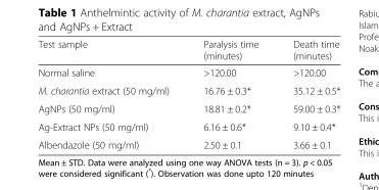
<table><thead><tr><td>Test sample</td><td>Paralysis time (minutes)</td><td>Death time (minutes)</td></tr></thead><tbody><tr><td>Normal saline</td><td>&gt;120.00</td><td>&gt;120.00</td></tr><tr><td>M. charantia extract (50 mg/ml)</td><td>16.76 ± 0.3*</td><td>35.12 ± 0.5*</td></tr><tr><td>AgNPs (50 mg/ml)</td><td>18.81 ± 0.2*</td><td>59.00 ± 0.3*</td></tr><tr><td>Ag-Extract NPs (50 mg/ml)</td><td>6.16 ± 0.6*</td><td>9.10 ± 0.4*</td></tr><tr><td>Albendazole (50 mg/ml)</td><td>2.50 ± 0.1</td><td>3.66 ± 0.1</td></tr></tbody></table>